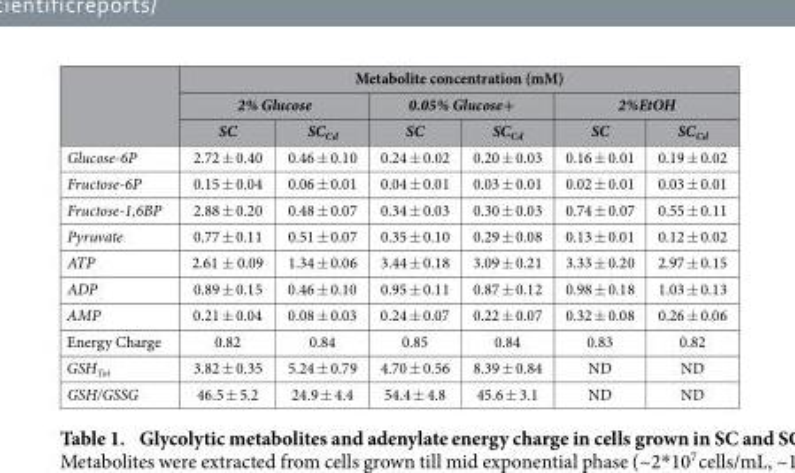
<table><thead><tr><td rowspan="3"></td><td colspan="6">Metabolite concentration (mM)</td></tr><tr><td colspan="2">2% Glucose</td><td colspan="2">0.05% Glucose+</td><td colspan="2">2%EtOH</td></tr><tr><td>SC</td><td>SC<sub>Cd</sub></td><td>SC</td><td>SC<sub>Cd</sub></td><td>SC</td><td>SC<sub>Cd</sub></td></tr></thead><tbody><tr><td>Glucose-6P</td><td>2.72 ± 0.40</td><td>0.46 ± 0.10</td><td>0.24 ± 0.02</td><td>0.20 ± 0.03</td><td>0.16 ± 0.01</td><td>0.19 ± 0.02</td></tr><tr><td>Fructose-6P</td><td>0.15 ± 0.04</td><td>0.06 ± 0.01</td><td>0.04 ± 0.01</td><td>0.03 ± 0.01</td><td>0.02 ± 0.01</td><td>0.03 ± 0.01</td></tr><tr><td>Fructose-1,6BP</td><td>2.88 ± 0.20</td><td>0.48 ± 0.07</td><td>0.34 ± 0.03</td><td>0.30 ± 0.03</td><td>0.74 ± 0.07</td><td>0.55 ± 0.11</td></tr><tr><td>Pyruvate</td><td>0.77 ± 0.11</td><td>0.51 ± 0.07</td><td>0.35 ± 0.10</td><td>0.29 ± 0.08</td><td>0.13 ± 0.01</td><td>0.12 ± 0.02</td></tr><tr><td>ATP</td><td>2.61 ± 0.09</td><td>1.34 ± 0.06</td><td>3.44 ± 0.18</td><td>3.09 ± 0.21</td><td>3.33 ± 0.20</td><td>2.97 ± 0.15</td></tr><tr><td>ADP</td><td>0.89 ± 0.15</td><td>0.46 ± 0.10</td><td>0.95 ± 0.11</td><td>0.87 ± 0.12</td><td>0.98 ± 0.18</td><td>1.03 ± 0.13</td></tr><tr><td>AMP</td><td>0.21 ± 0.04</td><td>0.08 ± 0.03</td><td>0.24 ± 0.07</td><td>0.22 ± 0.07</td><td>0.32 ± 0.08</td><td>0.26 ± 0.06</td></tr><tr><td>Energy Charge</td><td>0.82</td><td>0.84</td><td>0.85</td><td>0.84</td><td>0.83</td><td>0.82</td></tr><tr><td>GSH<sub>Tot</sub></td><td>3.82 ± 0.35</td><td>5.24 ± 0.79</td><td>4.70 ± 0.56</td><td>8.39 ± 0.84</td><td>ND</td><td>ND</td></tr><tr><td>GSH/GSSG</td><td>46.5 ± 5.2</td><td>24.9 ± 4.4</td><td>54.4 ± 4.8</td><td>45.6 ± 3.1</td><td>ND</td><td>ND</td></tr></tbody></table>